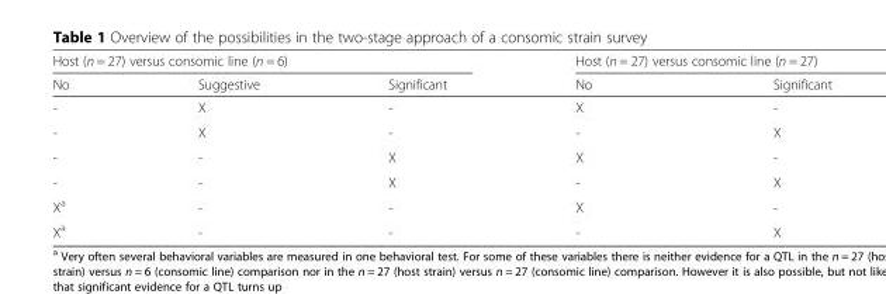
<table><thead><tr><td colspan="3">Host (n = 27) versus consomic line (n = 6)</td><td colspan="2">Host (n = 27) versus consomic line (n = 27)</td></tr><tr><td>No</td><td>Suggestive</td><td>Significant</td><td>No</td><td>Significant</td></tr></thead><tbody><tr><td>-</td><td>X</td><td>-</td><td>X</td><td>-</td></tr><tr><td>-</td><td>X</td><td>-</td><td>-</td><td>X</td></tr><tr><td>-</td><td>-</td><td>X</td><td>X</td><td>-</td></tr><tr><td>-</td><td>-</td><td>X</td><td>-</td><td>X</td></tr><tr><td>X<sup>a</sup></td><td>-</td><td>-</td><td>X</td><td>-</td></tr><tr><td>X<sup>a</sup></td><td>-</td><td>-</td><td>-</td><td>X</td></tr></tbody></table>